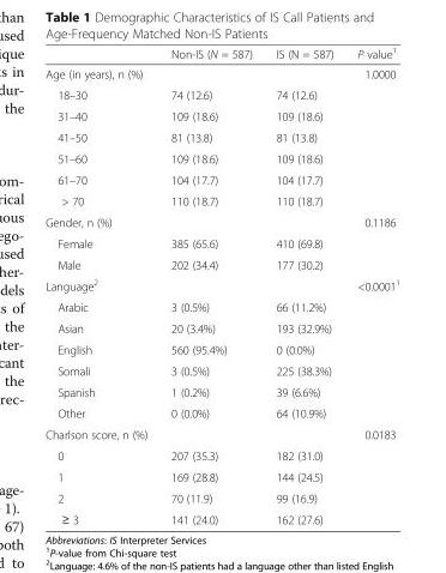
<table><thead><tr><td></td><td>Non-IS (N = 587)</td><td>IS (N = 587)</td><td>P value<sup>1</sup></td></tr></thead><tbody><tr><td>Age (in years), n (%)</td><td></td><td></td><td>1.0000</td></tr><tr><td>18–30</td><td>74 (12.6)</td><td>74 (12.6)</td><td></td></tr><tr><td>31–40</td><td>109 (18.6)</td><td>109 (18.6)</td><td></td></tr><tr><td>41–50</td><td>81 (13.8)</td><td>81 (13.8)</td><td></td></tr><tr><td>51–60</td><td>109 (18.6)</td><td>109 (18.6)</td><td></td></tr><tr><td>61–70</td><td>104 (17.7)</td><td>104 (17.7)</td><td></td></tr><tr><td>&gt; 70</td><td>110 (18.7)</td><td>110 (18.7)</td><td></td></tr><tr><td>Gender, n (%)</td><td></td><td></td><td>0.1186</td></tr><tr><td>Female</td><td>385 (65.6)</td><td>410 (69.8)</td><td></td></tr><tr><td>Male</td><td>202 (34.4)</td><td>177 (30.2)</td><td></td></tr><tr><td>Language<sup>2</sup></td><td></td><td></td><td>&lt;0.0001<sup>1</sup></td></tr><tr><td>Arabic</td><td>3 (0.5%)</td><td>66 (11.2%)</td><td></td></tr><tr><td>Asian</td><td>20 (3.4%)</td><td>193 (32.9%)</td><td></td></tr><tr><td>English</td><td>560 (95.4%)</td><td>0 (0.0%)</td><td></td></tr><tr><td>Somali</td><td>3 (0.5%)</td><td>225 (38.3%)</td><td></td></tr><tr><td>Spanish</td><td>1 (0.2%)</td><td>39 (6.6%)</td><td></td></tr><tr><td>Other</td><td>0 (0.0%)</td><td>64 (10.9%)</td><td></td></tr><tr><td>Charlson score, n (%)</td><td></td><td></td><td>0.0183</td></tr><tr><td>0</td><td>207 (35.3)</td><td>182 (31.0)</td><td></td></tr><tr><td>1</td><td>169 (28.8)</td><td>144 (24.5)</td><td></td></tr><tr><td>2</td><td>70 (11.9)</td><td>99 (16.9)</td><td></td></tr><tr><td>≥ 3</td><td>141 (24.0)</td><td>162 (27.6)</td><td></td></tr></tbody></table>